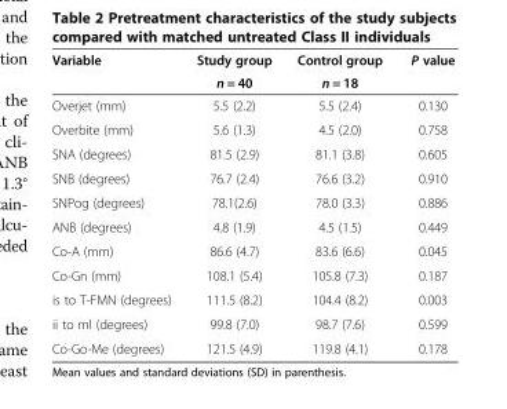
<table><thead><tr><td rowspan="2">Variable</td><td rowspan="2">Study group n = 40</td><td rowspan="2">Control group n = 18</td><td rowspan="2">P value</td></tr><tr></tr></thead><tbody><tr><td>Overjet (mm)</td><td>5.5 (2.2)</td><td>5.5 (2.4)</td><td>0.130</td></tr><tr><td>Overbite (mm)</td><td>5.6 (1.3)</td><td>4.5 (2.0)</td><td>0.758</td></tr><tr><td>SNA (degrees)</td><td>81.5 (2.9)</td><td>81.1 (3.8)</td><td>0.605</td></tr><tr><td>SNB (degrees)</td><td>76.7 (2.4)</td><td>76.6 (3.2)</td><td>0.910</td></tr><tr><td>SNPog (degrees)</td><td>78.1(2.6)</td><td>78.0 (3.3)</td><td>0.886</td></tr><tr><td>ANB (degrees)</td><td>4.8 (1.9)</td><td>4.5 (1.5)</td><td>0.449</td></tr><tr><td>Co-A (mm)</td><td>86.6 (4.7)</td><td>83.6 (6.6)</td><td>0.045</td></tr><tr><td>Co-Gn (mm)</td><td>108.1 (5.4)</td><td>105.8 (7.3)</td><td>0.187</td></tr><tr><td>is to T-FMN (degrees)</td><td>111.5 (8.2)</td><td>104.4 (8.2)</td><td>0.003</td></tr><tr><td>ii to ml (degrees)</td><td>99.8 (7.0)</td><td>98.7 (7.6)</td><td>0.599</td></tr><tr><td>Co-Go-Me (degrees)</td><td>121.5 (4.9)</td><td>119.8 (4.1)</td><td>0.178</td></tr></tbody></table>